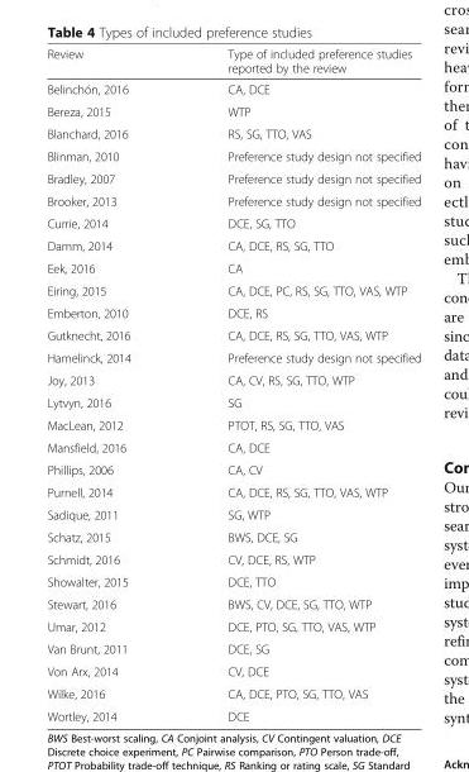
<table><thead><tr><td>Review</td><td>Type of included preference studies reported by the review</td></tr></thead><tbody><tr><td>Belinchón, 2016</td><td>CA, DCE</td></tr><tr><td>Bereza, 2015</td><td>WTP</td></tr><tr><td>Blanchard, 2016</td><td>RS, SG, TTO, VAS</td></tr><tr><td>Blinman, 2010</td><td>Preference study design not specified</td></tr><tr><td>Bradley, 2007</td><td>Preference study design not specified</td></tr><tr><td>Brooker, 2013</td><td>Preference study design not specified</td></tr><tr><td>Currie, 2014</td><td>DCE, SG, TTO</td></tr><tr><td>Damm, 2014</td><td>CA, DCE, RS, SG, TTO</td></tr><tr><td>Eek, 2016</td><td>CA</td></tr><tr><td>Eiring, 2015</td><td>CA, DCE, PC, RS, SG, TTO, VAS, WTP</td></tr><tr><td>Emberton, 2010</td><td>DCE, RS</td></tr><tr><td>Gutknecht, 2016</td><td>CA, DCE, RS, SG, TTO, VAS, WTP</td></tr><tr><td>Hamelinck, 2014</td><td>Preference study design not specified</td></tr><tr><td>Joy, 2013</td><td>CA, CV, RS, SG, TTO, WTP</td></tr><tr><td>Lytvyn, 2016</td><td>SG</td></tr><tr><td>MacLean, 2012</td><td>PTOT, RS, SG, TTO, VAS</td></tr><tr><td>Mansfield, 2016</td><td>CA, DCE</td></tr><tr><td>Phillips, 2006</td><td>CA, CV</td></tr><tr><td>Purnell, 2014</td><td>CA, DCE, RS, SG, TTO, VAS, WTP</td></tr><tr><td>Sadique, 2011</td><td>SG, WTP</td></tr><tr><td>Schatz, 2015</td><td>BWS, DCE, SG</td></tr><tr><td>Schmidt, 2016</td><td>CV, DCE, RS, WTP</td></tr><tr><td>Showalter, 2015</td><td>DCE, TTO</td></tr><tr><td>Stewart, 2016</td><td>BWS, CV, DCE, SG, TTO, WTP</td></tr><tr><td>Umar, 2012</td><td>DCE, PTO, SG, TTO, VAS, WTP</td></tr><tr><td>Van Brunt, 2011</td><td>DCE, SG</td></tr><tr><td>Von Arx, 2014</td><td>CV, DCE</td></tr><tr><td>Wilke, 2016</td><td>CA, DCE, PTO, SG, TTO, VAS</td></tr><tr><td>Wortley, 2014</td><td>DCE</td></tr></tbody></table>